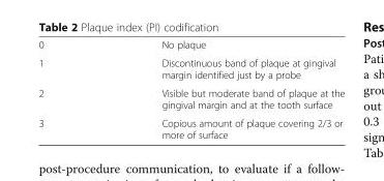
<table><tbody><tr><td>0</td><td>No plaque</td></tr><tr><td>1</td><td>Discontinuous band of plaque at gingival margin identified just by a probe</td></tr><tr><td>2</td><td>Visible but moderate band of plaque at the gingival margin and at the tooth surface</td></tr><tr><td>3</td><td>Copious amount of plaque covering 2/3 or more of surface</td></tr></tbody></table>